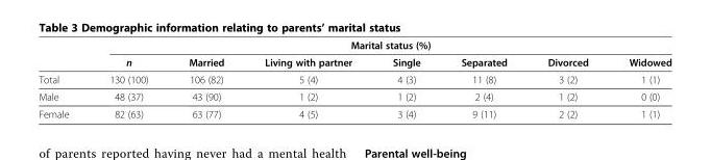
<table><thead><tr><td rowspan="2"></td><td colspan="7">Marital status (%)</td></tr><tr><td>n</td><td>Married</td><td>Living with partner</td><td>Single</td><td>Separated</td><td>Divorced</td><td>Widowed</td></tr></thead><tbody><tr><td>Total</td><td>130 (100)</td><td>106 (82)</td><td>5 (4)</td><td>4 (3)</td><td>11 (8)</td><td>3 (2)</td><td>1 (1)</td></tr><tr><td>Male</td><td>48 (37)</td><td>43 (90)</td><td>1 (2)</td><td>1 (2)</td><td>2 (4)</td><td>1 (2)</td><td>0 (0)</td></tr><tr><td>Female</td><td>82 (63)</td><td>63 (77)</td><td>4 (5)</td><td>3 (4)</td><td>9 (11)</td><td>2 (2)</td><td>1 (1)</td></tr></tbody></table>